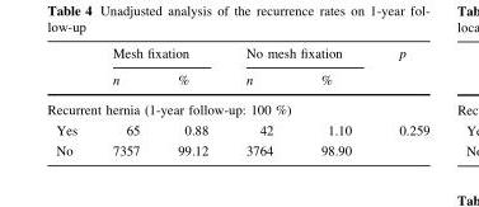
<table><thead><tr><td rowspan="2"></td><td colspan="2">Mesh fixation</td><td colspan="2">No mesh fixation</td><td rowspan="2">p</td></tr><tr><td>n</td><td>%</td><td>n</td><td>%</td></tr></thead><tbody><tr><td colspan="6">Recurrent hernia (1-year follow-up: 100 %)</td></tr><tr><td>Yes</td><td>65</td><td>0.88</td><td>42</td><td>1.10</td><td>0.259</td></tr><tr><td>No</td><td>7357</td><td>99.12</td><td>3764</td><td>98.90</td><td></td></tr></tbody></table>